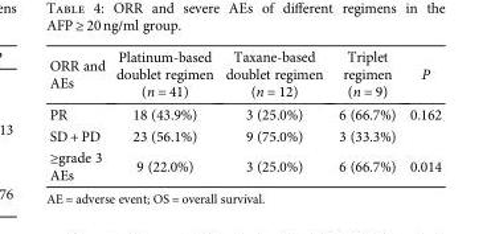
<table><thead><tr><td>ORR and AEs</td><td>Platinum-based doublet regimen (n = 41)</td><td>Taxane-based doublet regimen (n = 12)</td><td>Triplet regimen (n = 9)</td><td>P</td></tr></thead><tbody><tr><td>PR</td><td>18 (43.9%)</td><td>3 (25.0%)</td><td>6 (66.7%)</td><td>0.162</td></tr><tr><td>SD + PD</td><td>23 (56.1%)</td><td>9 (75.0%)</td><td>3 (33.3%)</td><td></td></tr><tr><td>≥grade 3 AEs</td><td>9 (22.0%)</td><td>3 (25.0%)</td><td>6 (66.7%)</td><td>0.014</td></tr></tbody></table>